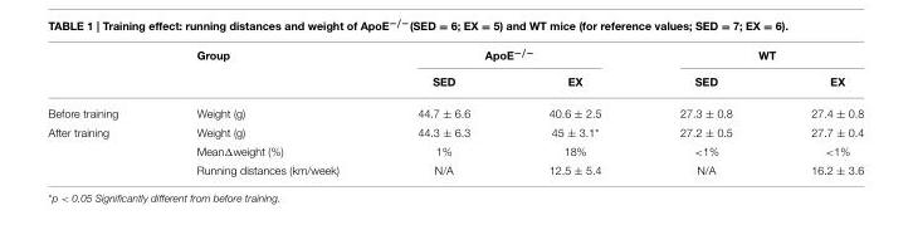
<table><thead><tr><td rowspan="2"></td><td rowspan="2">Group</td><td colspan="2">ApoE<sup>−/−</sup></td><td colspan="2">WT</td></tr><tr><td>SED</td><td>EX</td><td>SED</td><td>EX</td></tr></thead><tbody><tr><td>Before training</td><td>Weight (g)</td><td>44.7 ± 6.6</td><td>40.6 ± 2.5</td><td>27.3 ± 0.8</td><td>27.4 ± 0.8</td></tr><tr><td rowspan="3">After training</td><td>Weight (g)</td><td>44.3 ± 6.3</td><td>45 ± 3.1*</td><td>27.2 ± 0.5</td><td>27.7 ± 0.4</td></tr><tr><td>MeanΔweight (%)</td><td>1%</td><td>18%</td><td>&lt;1%</td><td>&lt;1%</td></tr><tr><td>Running distances (km/week)</td><td>N/A</td><td>12.5 ± 5.4</td><td>N/A</td><td>16.2 ± 3.6</td></tr></tbody></table>